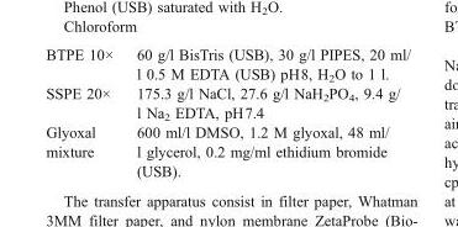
<table><tbody><tr><td>BTPE 10×</td><td>60 g/l BisTris (USB), 30 g/l PIPES, 20 ml/ l 0.5 M EDTA (USB) pH8, H<sub>2</sub>O to 1 l.</td></tr><tr><td>SSPE 20×</td><td>175.3 g/l NaCl, 27.6 g/l NaH<sub>2</sub>PO<sub>4</sub>, 9.4 g/ l Na<sub>2</sub> EDTA, pH7.4</td></tr><tr><td>Glyoxal mixture</td><td>600 ml/l DMSO, 1.2 M glyoxal, 48 ml/ l glycerol, 0.2 mg/ml ethidium bromide (USB).</td></tr></tbody></table>